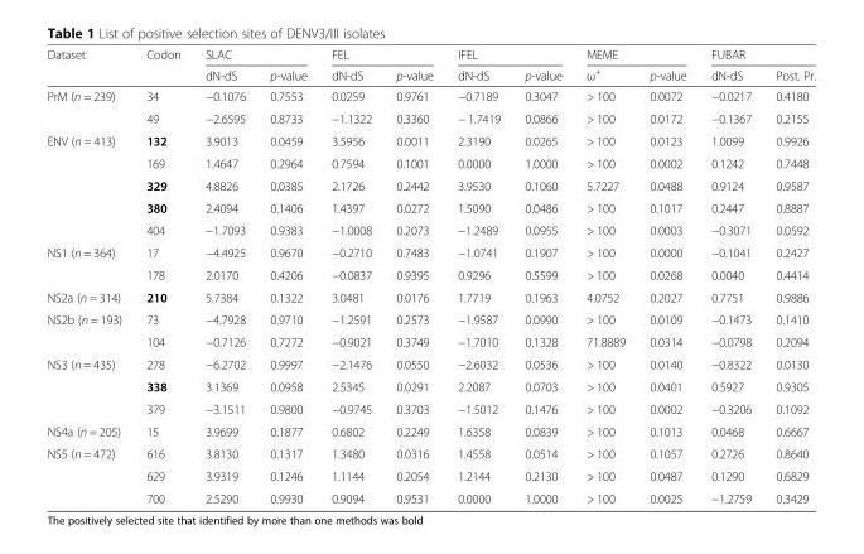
<table><thead><tr><td rowspan="2">Dataset</td><td rowspan="2">Codon</td><td colspan="2">SLAC</td><td colspan="2">FEL</td><td colspan="2">IFEL</td><td colspan="2">MEME</td><td colspan="2">FUBAR</td></tr><tr><td>dN-dS</td><td>p-value</td><td>dN-dS</td><td>p-value</td><td>dN-dS</td><td>p-value</td><td>ω<sup>+</sup></td><td>p-value</td><td>dN-dS</td><td>Post. Pr.</td></tr></thead><tbody><tr><td rowspan="2">PrM (n = 239)</td><td>34</td><td>−0.1076</td><td>0.7553</td><td>0.0259</td><td>0.9761</td><td>−0.7189</td><td>0.3047</td><td>&gt; 100</td><td>0.0072</td><td>−0.0217</td><td>0.4180</td></tr><tr><td>49</td><td>−2.6595</td><td>0.8733</td><td>−1.1322</td><td>0.3360</td><td>− 1.7419</td><td>0.0866</td><td>&gt; 100</td><td>0.0172</td><td>−0.1367</td><td>0.2155</td></tr><tr><td rowspan="5">ENV (n = 413)</td><td>132</td><td>3.9013</td><td>0.0459</td><td>3.5956</td><td>0.0011</td><td>2.3190</td><td>0.0265</td><td>&gt; 100</td><td>0.0123</td><td>1.0099</td><td>0.9926</td></tr><tr><td>169</td><td>1.4647</td><td>0.2964</td><td>0.7594</td><td>0.1001</td><td>0.0000</td><td>1.0000</td><td>&gt; 100</td><td>0.0002</td><td>0.1242</td><td>0.7448</td></tr><tr><td>329</td><td>4.8826</td><td>0.0385</td><td>2.1726</td><td>0.2442</td><td>3.9530</td><td>0.1060</td><td>5.7227</td><td>0.0488</td><td>0.9124</td><td>0.9587</td></tr><tr><td>380</td><td>2.4094</td><td>0.1406</td><td>1.4397</td><td>0.0272</td><td>1.5090</td><td>0.0486</td><td>&gt; 100</td><td>0.1017</td><td>0.2447</td><td>0.8887</td></tr><tr><td>404</td><td>−1.7093</td><td>0.9383</td><td>−1.0008</td><td>0.2073</td><td>−1.2489</td><td>0.0955</td><td>&gt; 100</td><td>0.0003</td><td>−0.3071</td><td>0.0592</td></tr><tr><td rowspan="2">NS1 (n = 364)</td><td>17</td><td>−4.4925</td><td>0.9670</td><td>−0.2710</td><td>0.7483</td><td>−1.0741</td><td>0.1907</td><td>&gt; 100</td><td>0.0000</td><td>−0.1041</td><td>0.2427</td></tr><tr><td>178</td><td>2.0170</td><td>0.4206</td><td>−0.0837</td><td>0.9395</td><td>0.9296</td><td>0.5599</td><td>&gt; 100</td><td>0.0268</td><td>0.0040</td><td>0.4414</td></tr><tr><td>NS2a (n = 314)</td><td>210</td><td>5.7384</td><td>0.1322</td><td>3.0481</td><td>0.0176</td><td>1.7719</td><td>0.1963</td><td>4.0752</td><td>0.2027</td><td>0.7751</td><td>0.9886</td></tr><tr><td rowspan="2">NS2b (n = 193)</td><td>73</td><td>−4.7928</td><td>0.9710</td><td>−1.2591</td><td>0.2573</td><td>−1.9587</td><td>0.0990</td><td>&gt; 100</td><td>0.0109</td><td>−0.1473</td><td>0.1410</td></tr><tr><td>104</td><td>−0.7126</td><td>0.7272</td><td>−0.9021</td><td>0.3749</td><td>−1.7010</td><td>0.1328</td><td>71.8889</td><td>0.0314</td><td>−0.0798</td><td>0.2094</td></tr><tr><td rowspan="3">NS3 (n = 435)</td><td>278</td><td>−6.2702</td><td>0.9997</td><td>−2.1476</td><td>0.0550</td><td>−2.6032</td><td>0.0536</td><td>&gt; 100</td><td>0.0140</td><td>−0.8322</td><td>0.0130</td></tr><tr><td>338</td><td>3.1369</td><td>0.0958</td><td>2.5345</td><td>0.0291</td><td>2.2087</td><td>0.0703</td><td>&gt; 100</td><td>0.0401</td><td>0.5927</td><td>0.9305</td></tr><tr><td>379</td><td>−3.1511</td><td>0.9800</td><td>−0.9745</td><td>0.3703</td><td>−1.5012</td><td>0.1476</td><td>&gt; 100</td><td>0.0002</td><td>−0.3206</td><td>0.1092</td></tr><tr><td>NS4a (n = 205)</td><td>15</td><td>3.9699</td><td>0.1877</td><td>0.6802</td><td>0.2249</td><td>1.6358</td><td>0.0839</td><td>&gt; 100</td><td>0.1013</td><td>0.0468</td><td>0.6667</td></tr><tr><td rowspan="3">NS5 (n = 472)</td><td>616</td><td>3.8130</td><td>0.1317</td><td>1.3480</td><td>0.0316</td><td>1.4558</td><td>0.0514</td><td>&gt; 100</td><td>0.1057</td><td>0.2726</td><td>0.8640</td></tr><tr><td>629</td><td>3.9319</td><td>0.1246</td><td>1.1144</td><td>0.2054</td><td>1.2144</td><td>0.2130</td><td>&gt; 100</td><td>0.0487</td><td>0.1290</td><td>0.6829</td></tr><tr><td>700</td><td>2.5290</td><td>0.9930</td><td>0.9094</td><td>0.9531</td><td>0.0000</td><td>1.0000</td><td>&gt; 100</td><td>0.0025</td><td>−1.2759</td><td>0.3429</td></tr></tbody></table>